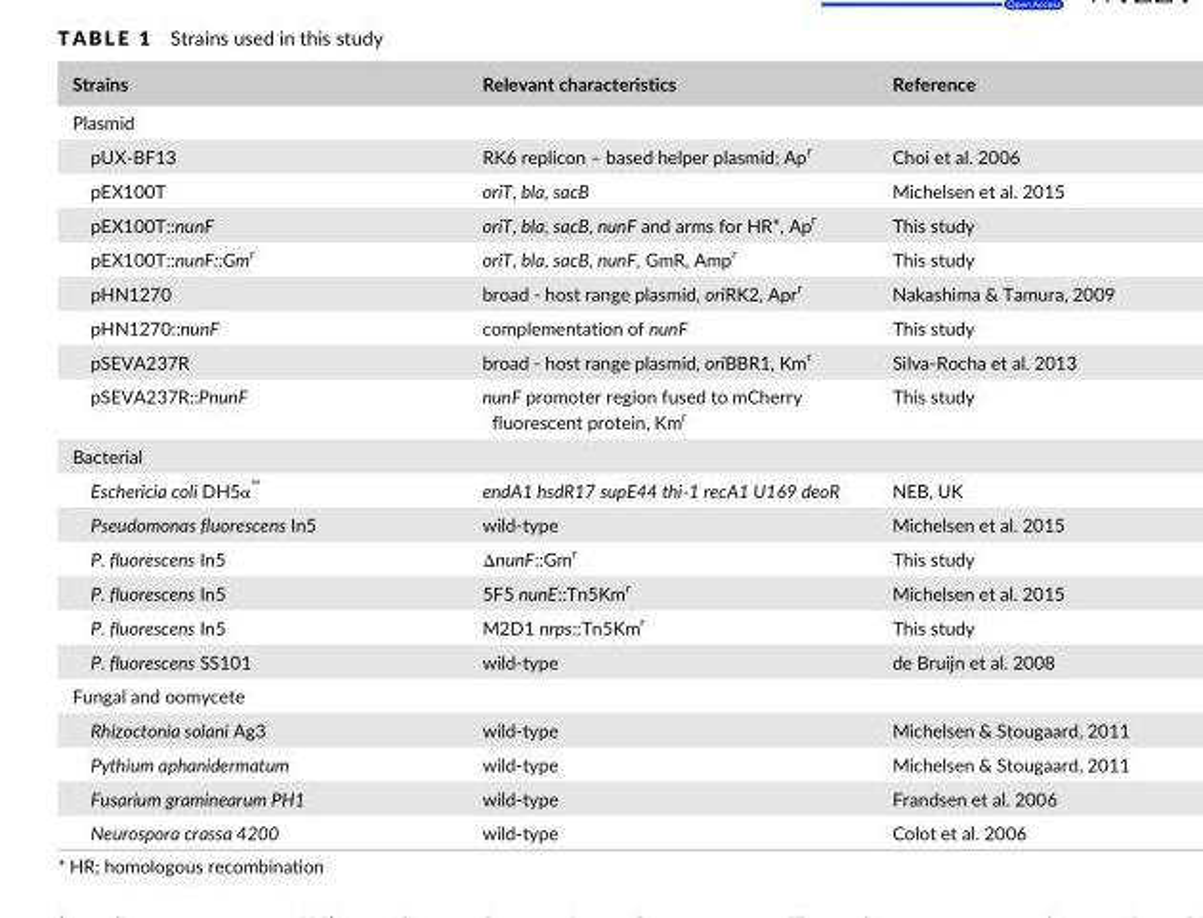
<table><thead><tr><td>Strains</td><td>Relevant characteristics</td><td>Reference</td></tr></thead><tbody><tr><td colspan="3">Plasmid</td></tr><tr><td>pUX- BF13</td><td>RK6 replicon – based helper plasmid; Ap<sup>r</sup></td><td>Choi et al. 2006</td></tr><tr><td>pEX100T</td><td>oriT, bla, sacB</td><td>Michelsen et al. 2015</td></tr><tr><td>pEX100T::nunF</td><td>oriT, bla, sacB, nunF and arms for HR*, Ap<sup>r</sup></td><td>This study</td></tr><tr><td>pEX100T::nunF::Gm<sup>r</sup></td><td>oriT, bla, sacB, nunF, GmR, Amp<sup>r</sup></td><td>This study</td></tr><tr><td>pHN1270</td><td>broad - host range plasmid, oriRK2, Apr<sup>r</sup></td><td>Nakashima &amp; Tamura, 2009</td></tr><tr><td>pHN1270::nunF</td><td>complementation of nunF</td><td>This study</td></tr><tr><td>pSEVA237R</td><td>broad - host range plasmid, oriBBR1, Km<sup>r</sup></td><td>Silva- Rocha et al. 2013</td></tr><tr><td>pSEVA237R::PnunF</td><td>nunF promoter region fused to mCherry fluorescent protein, Km<sup>r</sup></td><td>This study</td></tr><tr><td colspan="3">Bacterial</td></tr><tr><td>Eschericia coli DH5α<sup>™</sup></td><td>endA1 hsdR17 supE44 thi-1 recA1 U169 deoR</td><td>NEB, UK</td></tr><tr><td>Pseudomonas fluorescens In5</td><td>wild- type</td><td>Michelsen et al. 2015</td></tr><tr><td>P. fluorescens In5</td><td>ΔnunF::Gm<sup>r</sup></td><td>This study</td></tr><tr><td>P. fluorescens In5</td><td>5F5 nunE::Tn5Km<sup>r</sup></td><td>Michelsen et al. 2015</td></tr><tr><td>P. fluorescens In5</td><td>M2D1 nrps::Tn5Km<sup>r</sup></td><td>This study</td></tr><tr><td>P. fluorescens SS101</td><td>wild- type</td><td>de Bruijn et al. 2008</td></tr><tr><td colspan="3">Fungal and oomycete</td></tr><tr><td>Rhizoctonia solani Ag3</td><td>wild- type</td><td>Michelsen &amp; Stougaard, 2011</td></tr><tr><td>Pythium aphanidermatum</td><td>wild- type</td><td>Michelsen &amp; Stougaard, 2011</td></tr><tr><td>Fusarium graminearum PH1</td><td>wild- type</td><td>Frandsen et al. 2006</td></tr><tr><td>Neurospora crassa 4200</td><td>wild- type</td><td>Colot et al. 2006</td></tr></tbody></table>